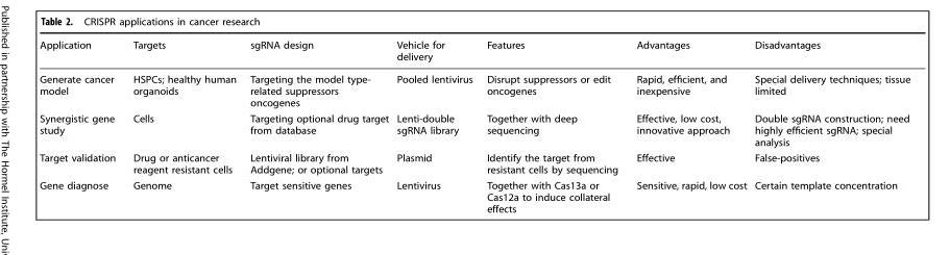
<table><thead><tr><td>Application</td><td>Targets</td><td>sgRNA design</td><td>Vehicle for delivery</td><td>Features</td><td>Advantages</td><td>Disadvantages</td></tr></thead><tbody><tr><td>Generate cancer model</td><td>HSPCs; healthy human organoids</td><td>Targeting the model type- related suppressors oncogenes</td><td>Pooled lentivirus</td><td>Disrupt suppressors or edit oncogenes</td><td>Rapid, efficient, and inexpensive</td><td>Special delivery techniques; tissue limited</td></tr><tr><td>Synergistic gene study</td><td>Cells</td><td>Targeting optional drug target from database</td><td>Lenti-double sgRNA library</td><td>Together with deep sequencing</td><td>Effective, low cost, innovative approach</td><td>Double sgRNA construction; need highly efficient sgRNA; special analysis</td></tr><tr><td>Target validation</td><td>Drug or anticancer reagent resistant cells</td><td>Lentiviral library from Addgene; or optional targets</td><td>Plasmid</td><td>Identify the target from resistant cells by sequencing</td><td>Effective</td><td>False-positives</td></tr><tr><td>Gene diagnose</td><td>Genome</td><td>Target sensitive genes</td><td>Lentivirus</td><td>Together with Cas13a or Cas12a to induce collateral effects</td><td>Sensitive, rapid, low cost</td><td>Certain template concentration</td></tr></tbody></table>